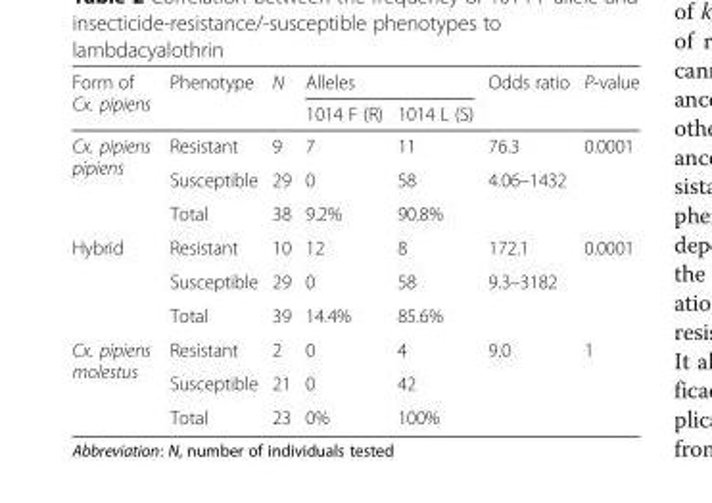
<table><thead><tr><td rowspan="2">Form of Cx. pipiens</td><td rowspan="2">Phenotype</td><td rowspan="2">N</td><td colspan="2">Alleles</td><td rowspan="2">Odds ratio</td><td rowspan="2">P-value</td></tr><tr><td>1014 F (R)</td><td>1014 L (S)</td></tr></thead><tbody><tr><td rowspan="3">Cx. pipiens pipiens</td><td>Resistant</td><td>9</td><td>7</td><td>11</td><td>76.3</td><td>0.0001</td></tr><tr><td>Susceptible</td><td>29</td><td>0</td><td>58</td><td>4.06–1432</td><td></td></tr><tr><td>Total</td><td>38</td><td>9.2%</td><td>90.8%</td><td></td><td></td></tr><tr><td rowspan="3">Hybrid</td><td>Resistant</td><td>10</td><td>12</td><td>8</td><td>172.1</td><td>0.0001</td></tr><tr><td>Susceptible</td><td>29</td><td>0</td><td>58</td><td>9.3–3182</td><td></td></tr><tr><td>Total</td><td>39</td><td>14.4%</td><td>85.6%</td><td></td><td></td></tr><tr><td rowspan="3">Cx. pipiens molestus</td><td>Resistant</td><td>2</td><td>0</td><td>4</td><td>9.0</td><td>1</td></tr><tr><td>Susceptible</td><td>21</td><td>0</td><td>42</td><td></td><td></td></tr><tr><td>Total</td><td>23</td><td>0%</td><td>100%</td><td></td><td></td></tr></tbody></table>